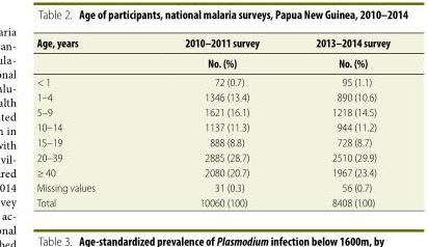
<table><thead><tr><td rowspan="2">Age, years</td><td rowspan="2">2010–2011 survey No. (%)</td><td rowspan="2">2013–2014 survey No. (%)</td></tr><tr></tr></thead><tbody><tr><td>&lt; 1</td><td>72 (0.7)</td><td>95 (1.1)</td></tr><tr><td>1–4</td><td>1346 (13.4)</td><td>890 (10.6)</td></tr><tr><td>5–9</td><td>1621 (16.1)</td><td>1218 (14.5)</td></tr><tr><td>10–14</td><td>1137 (11.3)</td><td>944 (11.2)</td></tr><tr><td>15–19</td><td>888 (8.8)</td><td>728 (8.7)</td></tr><tr><td>20–39</td><td>2885 (28.7)</td><td>2510 (29.9)</td></tr><tr><td>≥ 40</td><td>2080 (20.7)</td><td>1967 (23.4)</td></tr><tr><td>Missing values</td><td>31 (0.3)</td><td>56 (0.7)</td></tr><tr><td>Total</td><td>10060 (100)</td><td>8408 (100)</td></tr></tbody></table>